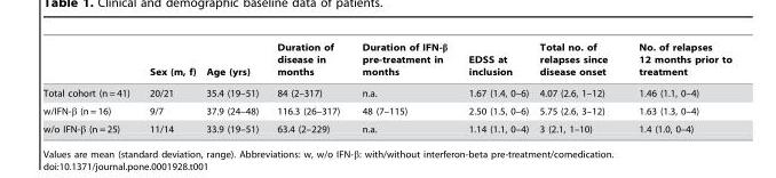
<table><thead><tr><td></td><td>Sex (m, f)</td><td>Age (yrs)</td><td>Duration of disease in months</td><td>Duration of IFN-β pre-treatment in months</td><td>EDSS at inclusion</td><td>Total no. of relapses since disease onset</td><td>No. of relapses 12 months prior to treatment</td></tr></thead><tbody><tr><td>Total cohort (n = 41)</td><td>20/21</td><td>35.4 (19–51)</td><td>84 (2–317)</td><td>n.a.</td><td>1.67 (1.4, 0–6)</td><td>4.07 (2.6, 1–12)</td><td>1.46 (1.1, 0–4)</td></tr><tr><td>w/IFN-β (n = 16)</td><td>9/7</td><td>37.9 (24–48)</td><td>116.3 (26–317)</td><td>48 (7–115)</td><td>2.50 (1.5, 0–6)</td><td>5.75 (2.6, 3–12)</td><td>1.63 (1.3, 0–4)</td></tr><tr><td>w/o IFN-β (n = 25)</td><td>11/14</td><td>33.9 (19–51)</td><td>63.4 (2–229)</td><td>n.a.</td><td>1.14 (1.1, 0–4)</td><td>3 (2.1, 1–10)</td><td>1.4 (1.0, 0–4)</td></tr></tbody></table>